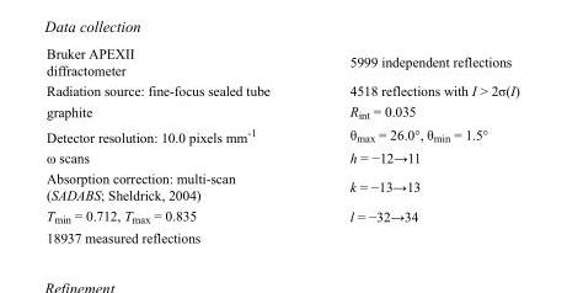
<table><tbody><tr><td>Bruker APEXII diffractometer</td><td>5999 independent reflections</td></tr><tr><td>Radiation source: fine-focus sealed tube</td><td>4518 reflections with I &gt; 2σ(I)</td></tr><tr><td>graphite</td><td>R<sub>int</sub> = 0.035</td></tr><tr><td>Detector resolution: 10.0 pixels mm<sup>-1</sup></td><td>θ<sub>max</sub> = 26.0°, θ<sub>min</sub> = 1.5°</td></tr><tr><td>ω scans</td><td>h = −12→11</td></tr><tr><td>Absorption correction: multi-scan (SADABS; Sheldrick, 2004)</td><td>k = −13→13</td></tr><tr><td>T<sub>min</sub> = 0.712, T<sub>max</sub> = 0.835</td><td>l = −32→34</td></tr><tr><td>18937 measured reflections</td><td></td></tr></tbody></table>